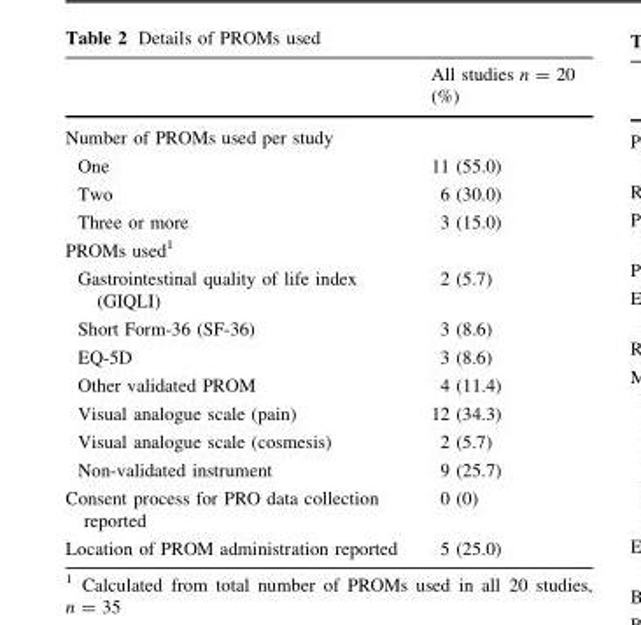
<table><thead><tr><td></td><td>All studies n = 20 (%)</td></tr></thead><tbody><tr><td colspan="2">Number of PROMs used per study</td></tr><tr><td>One</td><td>11 (55.0)</td></tr><tr><td>Two</td><td>6 (30.0)</td></tr><tr><td>Three or more</td><td>3 (15.0)</td></tr><tr><td colspan="2">PROMs used<sup>1</sup></td></tr><tr><td>Gastrointestinal quality of life index (GIQLI)</td><td>2 (5.7)</td></tr><tr><td>Short Form-36 (SF-36)</td><td>3 (8.6)</td></tr><tr><td>EQ-5D</td><td>3 (8.6)</td></tr><tr><td>Other validated PROM</td><td>4 (11.4)</td></tr><tr><td>Visual analogue scale (pain)</td><td>12 (34.3)</td></tr><tr><td>Visual analogue scale (cosmesis)</td><td>2 (5.7)</td></tr><tr><td>Non-validated instrument</td><td>9 (25.7)</td></tr><tr><td>Consent process for PRO data collection reported</td><td>0 (0)</td></tr><tr><td>Location of PROM administration reported</td><td>5 (25.0)</td></tr></tbody></table>